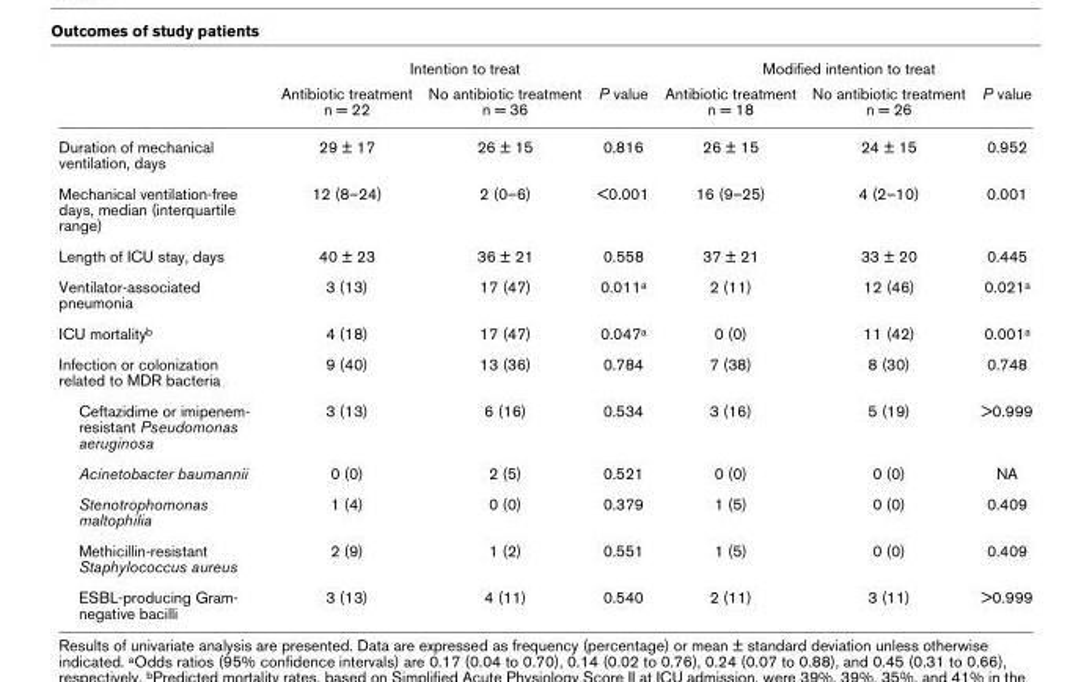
<table><thead><tr><td rowspan="2"></td><td colspan="3">Intention to treat</td><td colspan="3">Modified intention to treat</td></tr><tr><td>Antibiotic treatment n = 22</td><td>No antibiotic treatment n = 36</td><td>P value</td><td>Antibiotic treatment n = 18</td><td>No antibiotic treatment n = 26</td><td>P value</td></tr></thead><tbody><tr><td>Duration of mechanical ventilation, days</td><td>29 ± 17</td><td>26 ± 15</td><td>0.816</td><td>26 ± 15</td><td>24 ± 15</td><td>0.952</td></tr><tr><td>Mechanical ventilation-free days, median (interquartile range)</td><td>12 (8–24)</td><td>2 (0–6)</td><td>&lt;0.001</td><td>16 (9–25)</td><td>4 (2–10)</td><td>0.001</td></tr><tr><td>Length of ICU stay, days</td><td>40 ± 23</td><td>36 ± 21</td><td>0.558</td><td>37 ± 21</td><td>33 ± 20</td><td>0.445</td></tr><tr><td>Ventilator-associated pneumonia</td><td>3 (13)</td><td>17 (47)</td><td>0.011<sup>a</sup></td><td>2 (11)</td><td>12 (46)</td><td>0.021<sup>a</sup></td></tr><tr><td>ICU mortality<sup>b</sup></td><td>4 (18)</td><td>17 (47)</td><td>0.047<sup>a</sup></td><td>0 (0)</td><td>11 (42)</td><td>0.001<sup>a</sup></td></tr><tr><td>Infection or colonization related to MDR bacteria</td><td>9 (40)</td><td>13 (36)</td><td>0.784</td><td>7 (38)</td><td>8 (30)</td><td>0.748</td></tr><tr><td>Ceftazidime or imipenem- resistant Pseudomonas aeruginosa</td><td>3 (13)</td><td>6 (16)</td><td>0.534</td><td>3 (16)</td><td>5 (19)</td><td>&gt;0.999</td></tr><tr><td>Acinetobacter baumannii</td><td>0 (0)</td><td>2 (5)</td><td>0.521</td><td>0 (0)</td><td>0 (0)</td><td>NA</td></tr><tr><td>Stenotrophomonas maltophilia</td><td>1 (4)</td><td>0 (0)</td><td>0.379</td><td>1 (5)</td><td>0 (0)</td><td>0.409</td></tr><tr><td>Methicillin-resistant Staphylococcus aureus</td><td>2 (9)</td><td>1 (2)</td><td>0.551</td><td>1 (5)</td><td>0 (0)</td><td>0.409</td></tr><tr><td>ESBL-producing Gram- negative bacilli</td><td>3 (13)</td><td>4 (11)</td><td>0.540</td><td>2 (11)</td><td>3 (11)</td><td>&gt;0.999</td></tr></tbody></table>